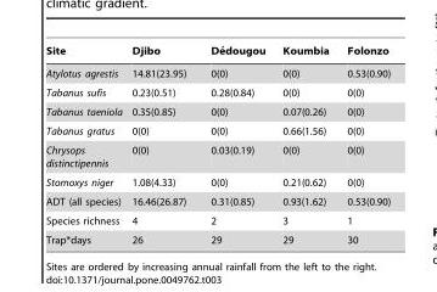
<table><thead><tr><td>Site</td><td>Djibo</td><td>De´dougou</td><td>Koumbia</td><td>Folonzo</td></tr></thead><tbody><tr><td>Atylotus agrestis</td><td>14.81(23.95)</td><td>0(0)</td><td>0(0)</td><td>0.53(0.90)</td></tr><tr><td>Tabanus sufis</td><td>0.23(0.51)</td><td>0.28(0.84)</td><td>0(0)</td><td>0(0)</td></tr><tr><td>Tabanus taeniola</td><td>0.35(0.85)</td><td>0(0)</td><td>0.07(0.26)</td><td>0(0)</td></tr><tr><td>Tabanus gratus</td><td>0(0)</td><td>0(0)</td><td>0.66(1.56)</td><td>0(0)</td></tr><tr><td>Chrysops distinctipennis</td><td>0(0)</td><td>0.03(0.19)</td><td>0(0)</td><td>0(0)</td></tr><tr><td>Stomoxys niger</td><td>1.08(4.33)</td><td>0(0)</td><td>0.21(0.62)</td><td>0(0)</td></tr><tr><td>ADT (all species)</td><td>16.46(26.87)</td><td>0.31(0.85)</td><td>0.93(1.62)</td><td>0.53(0.90)</td></tr><tr><td>Species richness</td><td>4</td><td>2</td><td>3</td><td>1</td></tr><tr><td>Trap*days</td><td>26</td><td>29</td><td>29</td><td>30</td></tr></tbody></table>